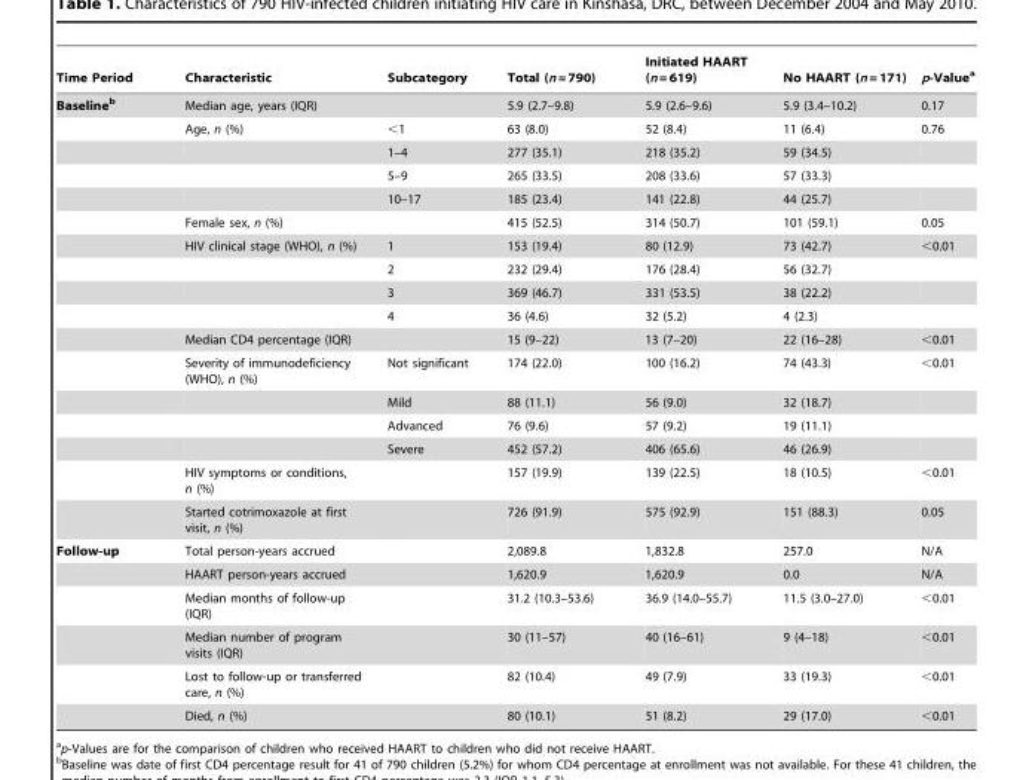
<table><thead><tr><td>Time Period</td><td>Characteristic</td><td>Subcategory</td><td>Total (n = 790)</td><td>Initiated HAART (n = 619)</td><td>No HAART (n = 171)</td><td>p-Value<sup>a</sup></td></tr></thead><tbody><tr><td rowspan="17">Baselineb</td><td>Median age, years (IQR)</td><td></td><td>5.9 (2.7–9.8)</td><td>5.9 (2.6–9.6)</td><td>5.9 (3.4–10.2)</td><td>0.17</td></tr><tr><td>Age, n (%)</td><td>&lt;1</td><td>63 (8.0)</td><td>52 (8.4)</td><td>11 (6.4)</td><td>0.76</td></tr><tr><td></td><td>1–4</td><td>277 (35.1)</td><td>218 (35.2)</td><td>59 (34.5)</td><td></td></tr><tr><td></td><td>5–9</td><td>265 (33.5)</td><td>208 (33.6)</td><td>57 (33.3)</td><td></td></tr><tr><td></td><td>10–17</td><td>185 (23.4)</td><td>141 (22.8)</td><td>44 (25.7)</td><td></td></tr><tr><td>Female sex, n (%)</td><td></td><td>415 (52.5)</td><td>314 (50.7)</td><td>101 (59.1)</td><td>0.05</td></tr><tr><td>HIV clinical stage (WHO), n (%)</td><td>1</td><td>153 (19.4)</td><td>80 (12.9)</td><td>73 (42.7)</td><td>&lt;0.01</td></tr><tr><td></td><td>2</td><td>232 (29.4)</td><td>176 (28.4)</td><td>56 (32.7)</td><td></td></tr><tr><td></td><td>3</td><td>369 (46.7)</td><td>331 (53.5)</td><td>38 (22.2)</td><td></td></tr><tr><td></td><td>4</td><td>36 (4.6)</td><td>32 (5.2)</td><td>4 (2.3)</td><td></td></tr><tr><td>Median CD4 percentage (IQR)</td><td></td><td>15 (9–22)</td><td>13 (7–20)</td><td>22 (16–28)</td><td>&lt;0.01</td></tr><tr><td>Severity of immunodeficiency (WHO), n (%)</td><td>Not significant</td><td>174 (22.0)</td><td>100 (16.2)</td><td>74 (43.3)</td><td>&lt;0.01</td></tr><tr><td></td><td>Mild</td><td>88 (11.1)</td><td>56 (9.0)</td><td>32 (18.7)</td><td></td></tr><tr><td></td><td>Advanced</td><td>76 (9.6)</td><td>57 (9.2)</td><td>19 (11.1)</td><td></td></tr><tr><td></td><td>Severe</td><td>452 (57.2)</td><td>406 (65.6)</td><td>46 (26.9)</td><td></td></tr><tr><td>HIV symptoms or conditions, n (%)</td><td></td><td>157 (19.9)</td><td>139 (22.5)</td><td>18 (10.5)</td><td>&lt;0.01</td></tr><tr><td>Started cotrimoxazole at first visit, n (%)</td><td></td><td>726 (91.9)</td><td>575 (92.9)</td><td>151 (88.3)</td><td>0.05</td></tr><tr><td rowspan="6">Follow-up</td><td>Total person-years accrued</td><td></td><td>2,089.8</td><td>1,832.8</td><td>257.0</td><td>N/A</td></tr><tr><td>HAART person-years accrued</td><td></td><td>1,620.9</td><td>1,620.9</td><td>0.0</td><td>N/A</td></tr><tr><td>Median months of follow-up (IQR)</td><td></td><td>31.2 (10.3–53.6)</td><td>36.9 (14.0–55.7)</td><td>11.5 (3.0–27.0)</td><td>&lt;0.01</td></tr><tr><td>Median number of program visits (IQR)</td><td></td><td>30 (11–57)</td><td>40 (16–61)</td><td>9 (4–18)</td><td>&lt;0.01</td></tr><tr><td>Lost to follow-up or transferred care, n (%)</td><td></td><td>82 (10.4)</td><td>49 (7.9)</td><td>33 (19.3)</td><td>&lt;0.01</td></tr><tr><td>Died, n (%)</td><td></td><td>80 (10.1)</td><td>51 (8.2)</td><td>29 (17.0)</td><td>&lt;0.01</td></tr></tbody></table>